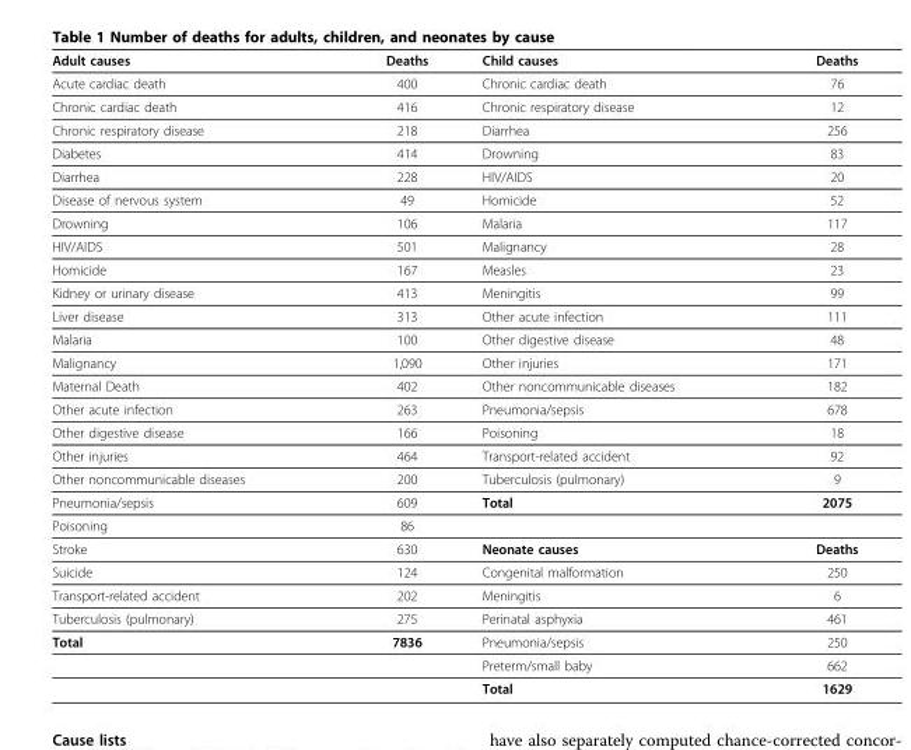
<table><thead><tr><td>Adult causes</td><td>Deaths</td><td>Child causes</td><td>Deaths</td></tr></thead><tbody><tr><td>Acute cardiac death</td><td>400</td><td>Chronic cardiac death</td><td>76</td></tr><tr><td>Chronic cardiac death</td><td>416</td><td>Chronic respiratory disease</td><td>12</td></tr><tr><td>Chronic respiratory disease</td><td>218</td><td>Diarrhea</td><td>256</td></tr><tr><td>Diabetes</td><td>414</td><td>Drowning</td><td>83</td></tr><tr><td>Diarrhea</td><td>228</td><td>HIV/AIDS</td><td>20</td></tr><tr><td>Disease of nervous system</td><td>49</td><td>Homicide</td><td>52</td></tr><tr><td>Drowning</td><td>106</td><td>Malaria</td><td>117</td></tr><tr><td>HIV/AIDS</td><td>501</td><td>Malignancy</td><td>28</td></tr><tr><td>Homicide</td><td>167</td><td>Measles</td><td>23</td></tr><tr><td>Kidney or urinary disease</td><td>413</td><td>Meningitis</td><td>99</td></tr><tr><td>Liver disease</td><td>313</td><td>Other acute infection</td><td>111</td></tr><tr><td>Malaria</td><td>100</td><td>Other digestive disease</td><td>48</td></tr><tr><td>Malignancy</td><td>1,090</td><td>Other injuries</td><td>171</td></tr><tr><td>Maternal Death</td><td>402</td><td>Other noncommunicable diseases</td><td>182</td></tr><tr><td>Other acute infection</td><td>263</td><td>Pneumonia/sepsis</td><td>678</td></tr><tr><td>Other digestive disease</td><td>166</td><td>Poisoning</td><td>18</td></tr><tr><td>Other injuries</td><td>464</td><td>Transport-related accident</td><td>92</td></tr><tr><td>Other noncommunicable diseases</td><td>200</td><td>Tuberculosis (pulmonary)</td><td>9</td></tr><tr><td>Pneumonia/sepsis</td><td>609</td><td>Total</td><td>2075</td></tr><tr><td>Poisoning</td><td>86</td><td></td><td></td></tr><tr><td>Stroke</td><td>630</td><td>Neonate causes</td><td>Deaths</td></tr><tr><td>Suicide</td><td>124</td><td>Congenital malformation</td><td>250</td></tr><tr><td>Transport-related accident</td><td>202</td><td>Meningitis</td><td>6</td></tr><tr><td>Tuberculosis (pulmonary)</td><td>275</td><td>Perinatal asphyxia</td><td>461</td></tr><tr><td rowspan="3">Total</td><td>7836</td><td>Pneumonia/sepsis</td><td>250</td></tr><tr><td></td><td>Preterm/small baby</td><td>662</td></tr><tr><td></td><td>Total</td><td>1629</td></tr></tbody></table>